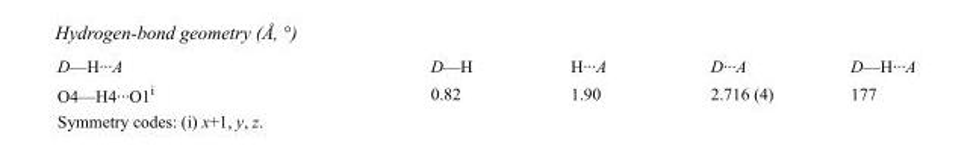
<table><tbody><tr><td>D—H···A</td><td>D—H</td><td>H···A</td><td>D···A</td><td>D—H···A</td></tr><tr><td>O4—H4···O1<sup>i</sup></td><td>0.82</td><td>1.90</td><td>2.716 (4)</td><td>177</td></tr></tbody></table>